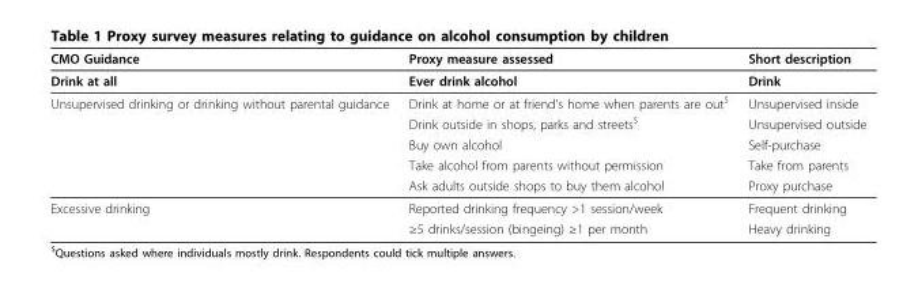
<table><thead><tr><td>CMO Guidance</td><td>Proxy measure assessed</td><td>Short description</td></tr></thead><tbody><tr><td>Drink at all</td><td>Ever drink alcohol</td><td>Drink</td></tr><tr><td rowspan="5">Unsupervised drinking or drinking without parental guidance</td><td>Drink at home or at friend’s home when parents are out<sup>$</sup></td><td>Unsupervised inside</td></tr><tr><td>Drink outside in shops, parks and streets<sup>$</sup></td><td>Unsupervised outside</td></tr><tr><td>Buy own alcohol</td><td>Self-purchase</td></tr><tr><td>Take alcohol from parents without permission</td><td>Take from parents</td></tr><tr><td>Ask adults outside shops to buy them alcohol</td><td>Proxy purchase</td></tr><tr><td rowspan="2">Excessive drinking</td><td>Reported drinking frequency &gt;1 session/week</td><td>Frequent drinking</td></tr><tr><td>≥5 drinks/session (bingeing) ≥1 per month</td><td>Heavy drinking</td></tr></tbody></table>